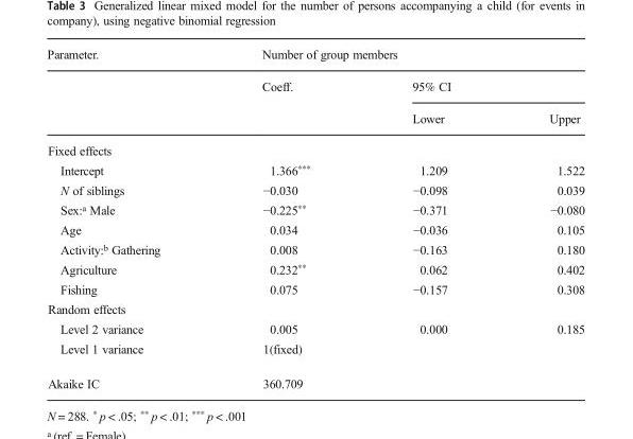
<table><thead><tr><td rowspan="3">Parameter.</td><td colspan="3">Number of group members</td></tr><tr><td rowspan="2">Coeff.</td><td colspan="2">95% CI</td></tr><tr><td>Lower</td><td>Upper</td></tr></thead><tbody><tr><td colspan="4">Fixed effects</td></tr><tr><td>Intercept</td><td>1.366***</td><td>1.209</td><td>1.522</td></tr><tr><td>N of siblings</td><td>−0.030</td><td>−0.098</td><td>0.039</td></tr><tr><td>Sex:<sup>a</sup> Male</td><td>−0.225**</td><td>−0.371</td><td>−0.080</td></tr><tr><td>Age</td><td>0.034</td><td>−0.036</td><td>0.105</td></tr><tr><td>Activity:<sup>b</sup> Gathering</td><td>0.008</td><td>−0.163</td><td>0.180</td></tr><tr><td>Agriculture</td><td>0.232**</td><td>0.062</td><td>0.402</td></tr><tr><td>Fishing</td><td>0.075</td><td>−0.157</td><td>0.308</td></tr><tr><td colspan="4">Random effects</td></tr><tr><td>Level 2 variance</td><td>0.005</td><td>0.000</td><td>0.185</td></tr><tr><td>Level 1 variance</td><td colspan="3">1(fixed)</td></tr><tr><td>Akaike IC</td><td colspan="3">360.709</td></tr></tbody></table>